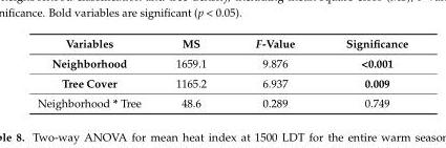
<table><thead><tr><td>Variables</td><td>MS</td><td>F-Value</td><td>Significance</td></tr></thead><tbody><tr><td>Neighborhood</td><td>1659.1</td><td>9.876</td><td>&lt;0.001</td></tr><tr><td>Tree Cover</td><td>1165.2</td><td>6.937</td><td>0.009</td></tr><tr><td>Neighborhood * Tree</td><td>48.6</td><td>0.289</td><td>0.749</td></tr></tbody></table>